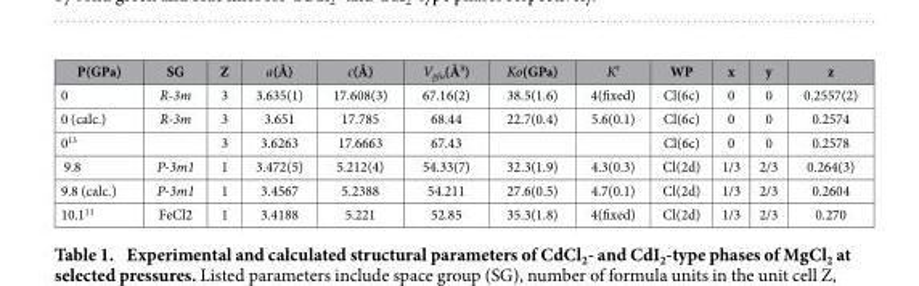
<table><thead><tr><td>P(GPa)</td><td>SG</td><td>Z</td><td>a(Å)</td><td>c(Å)</td><td>V<sub>pfu</sub>(Å<sup>3</sup>)</td><td>Ko(GPa)</td><td>K′</td><td>WP</td><td>x</td><td>y</td><td>z</td></tr></thead><tbody><tr><td>0</td><td>R-3m</td><td>3</td><td>3.635(1)</td><td>17.608(3)</td><td>67.16(2)</td><td>38.5(1.6)</td><td>4(fixed)</td><td>Cl(6c)</td><td>0</td><td>0</td><td>0.2557(2)</td></tr><tr><td>0 (calc.)</td><td>R-3m</td><td>3</td><td>3.651</td><td>17.785</td><td>68.44</td><td>22.7(0.4)</td><td>5.6(0.1)</td><td>Cl(6c)</td><td>0</td><td>0</td><td>0.2574</td></tr><tr><td>0<sup>13</sup></td><td></td><td>3</td><td>3.6263</td><td>17.6663</td><td>67.43</td><td></td><td></td><td>Cl(6c)</td><td>0</td><td>0</td><td>0.2578</td></tr><tr><td>9.8</td><td>P-3m1</td><td>1</td><td>3.472(5)</td><td>5.212(4)</td><td>54.33(7)</td><td>32.3(1.9)</td><td>4.3(0.3)</td><td>Cl(2d)</td><td>1/3</td><td>2/3</td><td>0.264(3)</td></tr><tr><td>9.8 (calc.)</td><td>P-3m1</td><td>1</td><td>3.4567</td><td>5.2388</td><td>54.211</td><td>27.6(0.5)</td><td>4.7(0.1)</td><td>Cl(2d)</td><td>1/3</td><td>2/3</td><td>0.2604</td></tr><tr><td>10.1<sup>11</sup></td><td>FeCl2</td><td>1</td><td>3.4188</td><td>5.221</td><td>52.85</td><td>35.3(1.8)</td><td>4(fixed)</td><td>Cl(2d)</td><td>1/3</td><td>2/3</td><td>0.270</td></tr></tbody></table>